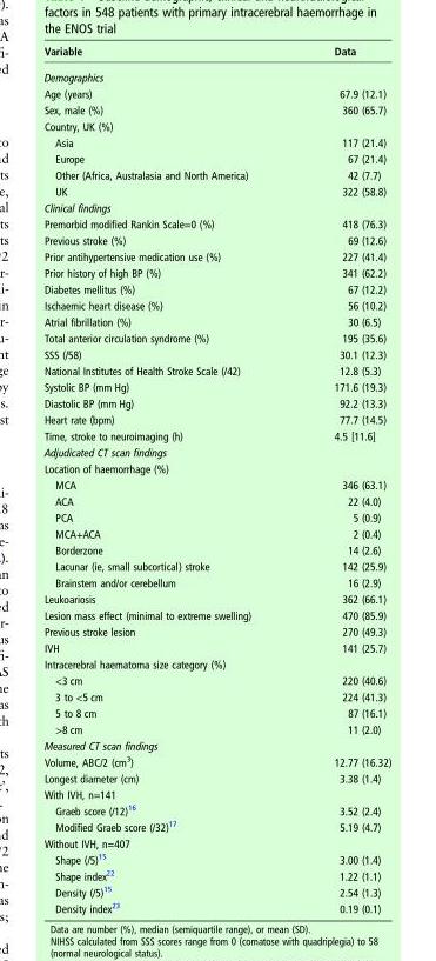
<table><thead><tr><td>Variable</td><td>Data</td></tr></thead><tbody><tr><td colspan="2">Demographics</td></tr><tr><td>Age (years)</td><td>67.9 (12.1)</td></tr><tr><td>Sex, male (%)</td><td>360 (65.7)</td></tr><tr><td colspan="2">Country, UK (%)</td></tr><tr><td>Asia</td><td>117 (21.4)</td></tr><tr><td>Europe</td><td>67 (21.4)</td></tr><tr><td>Other (Africa, Australasia and North America)</td><td>42 (7.7)</td></tr><tr><td>UK</td><td>322 (58.8)</td></tr><tr><td colspan="2">Clinical findings</td></tr><tr><td>Premorbid modified Rankin Scale=0 (%)</td><td>418 (76.3)</td></tr><tr><td>Previous stroke (%)</td><td>69 (12.6)</td></tr><tr><td>Prior antihypertensive medication use (%)</td><td>227 (41.4)</td></tr><tr><td>Prior history of high BP (%)</td><td>341 (62.2)</td></tr><tr><td>Diabetes mellitus (%)</td><td>67 (12.2)</td></tr><tr><td>Ischaemic heart disease (%)</td><td>56 (10.2)</td></tr><tr><td>Atrial fibrillation (%)</td><td>30 (6.5)</td></tr><tr><td>Total anterior circulation syndrome (%)</td><td>195 (35.6)</td></tr><tr><td>SSS (/58)</td><td>30.1 (12.3)</td></tr><tr><td>National Institutes of Health Stroke Scale (/42)</td><td>12.8 (5.3)</td></tr><tr><td>Systolic BP (mm Hg)</td><td>171.6 (19.3)</td></tr><tr><td>Diastolic BP (mm Hg)</td><td>92.2 (13.3)</td></tr><tr><td>Heart rate (bpm)</td><td>77.7 (14.5)</td></tr><tr><td>Time, stroke to neuroimaging (h)</td><td>4.5 [11.6]</td></tr><tr><td colspan="2">Adjudicated CT scan findings</td></tr><tr><td colspan="2">Location of haemorrhage (%)</td></tr><tr><td>MCA</td><td>346 (63.1)</td></tr><tr><td>ACA</td><td>22 (4.0)</td></tr><tr><td>PCA</td><td>5 (0.9)</td></tr><tr><td>MCA+ACA</td><td>2 (0.4)</td></tr><tr><td>Borderzone</td><td>14 (2.6)</td></tr><tr><td>Lacunar (ie, small subcortical) stroke</td><td>142 (25.9)</td></tr><tr><td>Brainstem and/or cerebellum</td><td>16 (2.9)</td></tr><tr><td>Leukoariosis</td><td>362 (66.1)</td></tr><tr><td>Lesion mass effect (minimal to extreme swelling)</td><td>470 (85.9)</td></tr><tr><td>Previous stroke lesion</td><td>270 (49.3)</td></tr><tr><td>IVH</td><td>141 (25.7)</td></tr><tr><td colspan="2">Intracerebral haematoma size category (%)</td></tr><tr><td>&lt;3 cm</td><td>220 (40.6)</td></tr><tr><td>3 to &lt;5 cm</td><td>224 (41.3)</td></tr><tr><td>5 to 8 cm</td><td>87 (16.1)</td></tr><tr><td>&gt;8 cm</td><td>11 (2.0)</td></tr><tr><td colspan="2">Measured CT scan findings</td></tr><tr><td>Volume, ABC/2 (cm<sup>3</sup>)</td><td>12.77 (16.32)</td></tr><tr><td>Longest diameter (cm)</td><td>3.38 (1.4)</td></tr><tr><td colspan="2">With IVH, n=141</td></tr><tr><td>Graeb score (/12)<sup>16</sup></td><td>3.52 (2.4)</td></tr><tr><td>Modified Graeb score (/32)<sup>17</sup></td><td>5.19 (4.7)</td></tr><tr><td colspan="2">Without IVH, n=407</td></tr><tr><td>Shape (/5)<sup>15</sup></td><td>3.00 (1.4)</td></tr><tr><td>Shape index<sup>22</sup></td><td>1.22 (1.1)</td></tr><tr><td>Density (/5)<sup>15</sup></td><td>2.54 (1.3)</td></tr><tr><td>Density index<sup>23</sup></td><td>0.19 (0.1)</td></tr></tbody></table>